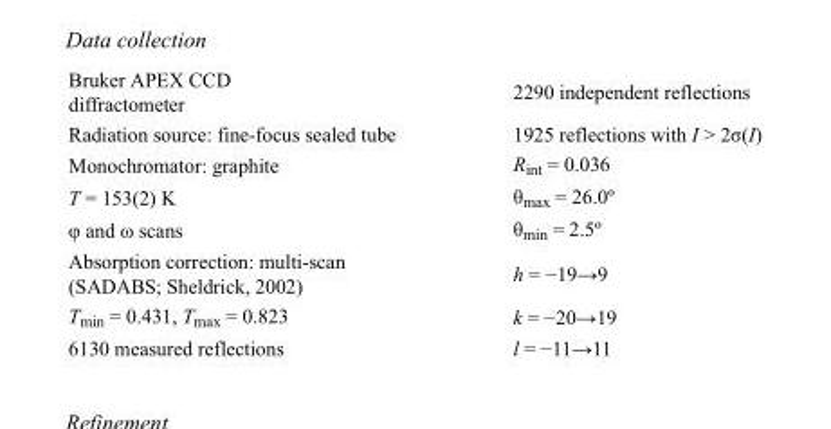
<table><tbody><tr><td>Bruker APEX CCD diffractometer</td><td>2290 independent reflections</td></tr><tr><td>Radiation source: fine-focus sealed tube</td><td>1925 reflections with I &gt; 2σ(I)</td></tr><tr><td>Monochromator: graphite</td><td>R<sub>int</sub> = 0.036</td></tr><tr><td>T = 153(2) K</td><td>θ<sub>max</sub> = 26.0º</td></tr><tr><td>φ and ω scans</td><td>θ<sub>min</sub> = 2.5º</td></tr><tr><td>Absorption correction: multi-scan (SADABS; Sheldrick, 2002)</td><td>h = −19→9</td></tr><tr><td>T<sub>min</sub> = 0.431, T<sub>max</sub> = 0.823</td><td>k = −20→19</td></tr><tr><td>6130 measured reflections</td><td>l = −11→11</td></tr></tbody></table>